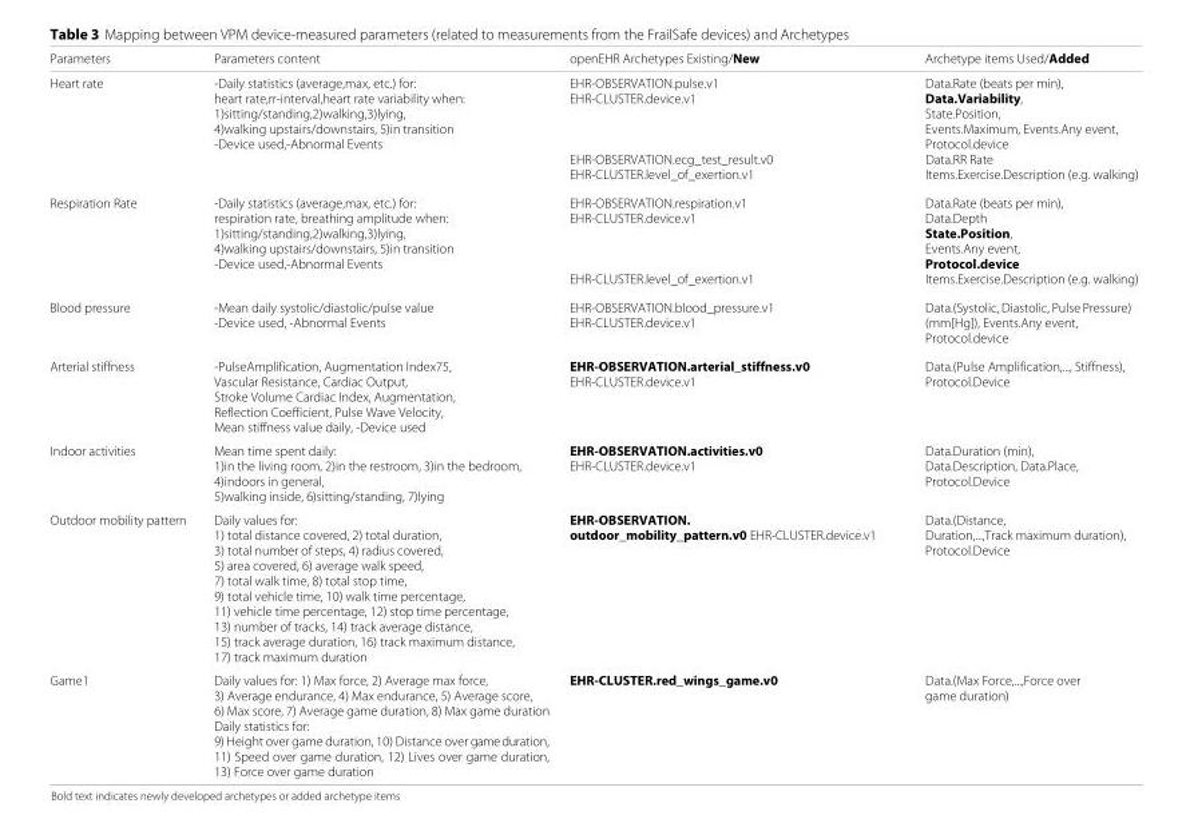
<table><thead><tr><td>Parameters</td><td>Parameters content</td><td>openEHR Archetypes Existing/New</td><td>Archetype items Used/Added</td></tr></thead><tbody><tr><td rowspan="3">Heart rate</td><td>-Daily statistics (average,max, etc.) for: heart rate,rr-interval,heart rate variability when: 1)sitting/standing,2)walking,3)lying, 4)walking upstairs/downstairs, 5)in transition -Device used,-Abnormal Events</td><td>EHR-OBSERVATION.pulse.v1 EHR-CLUSTER.device.v1</td><td>Data.Rate (beats per min), Data.Variability, State.Position, Events.Maximum, Events.Any event, Protocol.device</td></tr><tr><td></td><td>EHR-OBSERVATION.ecg_test_result.v0</td><td>Data.RR Rate</td></tr><tr><td></td><td>EHR-CLUSTER.level_of_exertion.v1</td><td>Items.Exercise.Description (e.g. walking)</td></tr><tr><td rowspan="2">Respiration Rate</td><td>-Daily statistics (average,max, etc.) for: respiration rate, breathing amplitude when: 1)sitting/standing,2)walking,3)lying, 4)walking upstairs/downstairs, 5)in transition -Device used,-Abnormal Events</td><td>EHR-OBSERVATION.respiration.v1 EHR-CLUSTER.device.v1</td><td>Data.Rate (beats per min), Data.Depth State.Position, Events.Any event, Protocol.device</td></tr><tr><td></td><td>EHR-CLUSTER.level_of_exertion.v1</td><td>Items.Exercise.Description (e.g. walking)</td></tr><tr><td>Blood pressure</td><td>-Mean daily systolic/diastolic/pulse value -Device used, -Abnormal Events</td><td>EHR-OBSERVATION.blood_pressure.v1 EHR-CLUSTER.device.v1</td><td>Data.(Systolic, Diastolic, Pulse Pressure) (mm[Hg]), Events.Any event, Protocol.device</td></tr><tr><td>Arterial stiffness</td><td>-PulseAmplification, Augmentation Index75, Vascular Resistance, Cardiac Output, Stroke Volume Cardiac Index, Augmentation, Reflection Coefficient, Pulse Wave Velocity, Mean stiffness value daily, -Device used</td><td>EHR-OBSERVATION.arterial_stiffness.v0 EHR-CLUSTER.device.v1</td><td>Data.(Pulse Amplification,..., Stiffness), Protocol.Device</td></tr><tr><td>Indoor activities</td><td>Mean time spent daily: 1)in the living room, 2)in the restroom, 3)in the bedroom, 4)indoors in general, 5)walking inside, 6)sitting/standing, 7)lying</td><td>EHR-OBSERVATION.activities.v0 EHR-CLUSTER.device.v1</td><td>Data.Duration (min), Data.Description, Data.Place, Protocol.Device</td></tr><tr><td>Outdoor mobility pattern</td><td>Daily values for: 1) total distance covered, 2) total duration, 3) total number of steps, 4) radius covered, 5) area covered, 6) average walk speed, 7) total walk time, 8) total stop time, 9) total vehicle time, 10) walk time percentage, 11) vehicle time percentage, 12) stop time percentage, 13) number of tracks, 14) track average distance, 15) track average duration, 16) track maximum distance, 17) track maximum duration</td><td>EHR-OBSERVATION. outdoor_mobility_pattern.v0 EHR-CLUSTER.device.v1</td><td>Data.(Distance, Duration,...,Track maximum duration), Protocol.Device</td></tr><tr><td>Game1</td><td>Daily values for: 1) Max force, 2) Average max force, 3) Average endurance, 4) Max endurance, 5) Average score, 6) Max score, 7) Average game duration, 8) Max game duration Daily statistics for: 9) Height over game duration, 10) Distance over gameduration, 11) Speed over game duration, 12) Lives over game duration, 13) Force over game duration</td><td>EHR-CLUSTER.red_wings_game.v0</td><td>Data.(Max Force,...,Force over game duration)</td></tr></tbody></table>